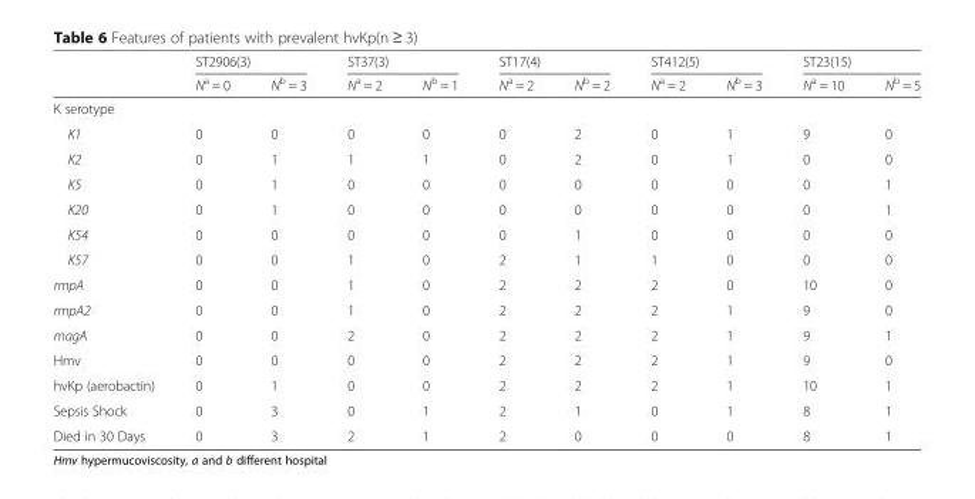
<table><thead><tr><td rowspan="2"></td><td colspan="2">ST2906(3)</td><td colspan="2">ST37(3)</td><td colspan="2">ST17(4)</td><td colspan="2">ST412(5)</td><td colspan="2">ST23(15)</td></tr><tr><td>N<sup>a</sup> = 0</td><td>N<sup>b</sup> = 3</td><td>N<sup>a</sup> = 2</td><td>N<sup>b</sup> = 1</td><td>N<sup>a</sup> = 2</td><td>N<sup>b</sup> = 2</td><td>N<sup>a</sup> = 2</td><td>N<sup>b</sup> = 3</td><td>N<sup>a</sup> = 10</td><td>N<sup>b</sup> = 5</td></tr></thead><tbody><tr><td colspan="11">K serotype</td></tr><tr><td>K1</td><td>0</td><td>0</td><td>0</td><td>0</td><td>0</td><td>2</td><td>0</td><td>1</td><td>9</td><td>0</td></tr><tr><td>K2</td><td>0</td><td>1</td><td>1</td><td>1</td><td>0</td><td>2</td><td>0</td><td>1</td><td>0</td><td>0</td></tr><tr><td>K5</td><td>0</td><td>1</td><td>0</td><td>0</td><td>0</td><td>0</td><td>0</td><td>0</td><td>0</td><td>1</td></tr><tr><td>K20</td><td>0</td><td>1</td><td>0</td><td>0</td><td>0</td><td>0</td><td>0</td><td>0</td><td>0</td><td>1</td></tr><tr><td>K54</td><td>0</td><td>0</td><td>0</td><td>0</td><td>0</td><td>1</td><td>0</td><td>0</td><td>0</td><td>0</td></tr><tr><td>K57</td><td>0</td><td>0</td><td>1</td><td>0</td><td>2</td><td>1</td><td>1</td><td>0</td><td>0</td><td>0</td></tr><tr><td>rmpA</td><td>0</td><td>0</td><td>1</td><td>0</td><td>2</td><td>2</td><td>2</td><td>0</td><td>10</td><td>0</td></tr><tr><td>rmpA2</td><td>0</td><td>0</td><td>1</td><td>0</td><td>2</td><td>2</td><td>2</td><td>1</td><td>9</td><td>0</td></tr><tr><td>magA</td><td>0</td><td>0</td><td>2</td><td>0</td><td>2</td><td>2</td><td>2</td><td>1</td><td>9</td><td>1</td></tr><tr><td>Hmv</td><td>0</td><td>0</td><td>0</td><td>0</td><td>2</td><td>2</td><td>2</td><td>1</td><td>9</td><td>0</td></tr><tr><td>hvKp (aerobactin)</td><td>0</td><td>1</td><td>0</td><td>0</td><td>2</td><td>2</td><td>2</td><td>1</td><td>10</td><td>1</td></tr><tr><td>Sepsis Shock</td><td>0</td><td>3</td><td>0</td><td>1</td><td>2</td><td>1</td><td>0</td><td>1</td><td>8</td><td>1</td></tr><tr><td>Died in 30 Days</td><td>0</td><td>3</td><td>2</td><td>1</td><td>2</td><td>0</td><td>0</td><td>0</td><td>8</td><td>1</td></tr></tbody></table>